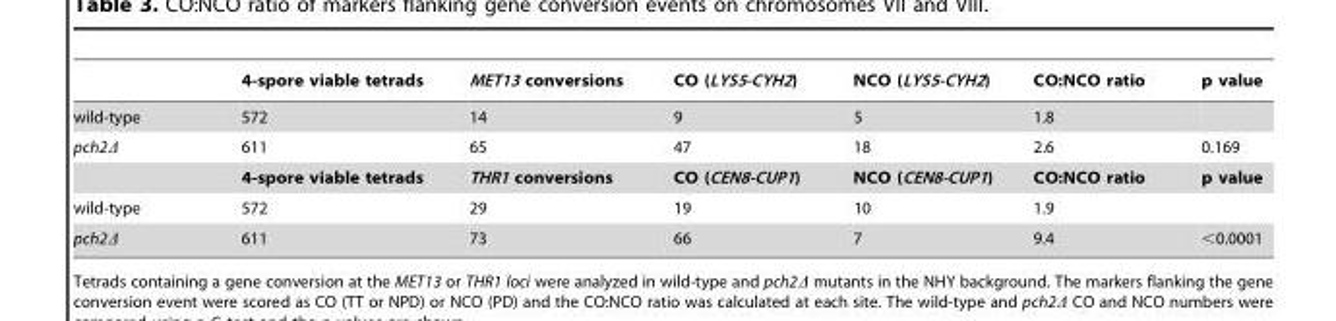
<table><thead><tr><td></td><td>4-spore viable tetrads</td><td>MET13 conversions</td><td>CO (LYS5-CYH2)</td><td>NCO (LYS5-CYH2)</td><td>CO:NCO ratio</td><td>p value</td></tr></thead><tbody><tr><td>wild-type</td><td>572</td><td>14</td><td>9</td><td>5</td><td>1.8</td><td></td></tr><tr><td rowspan="2">pch2Δ</td><td>611</td><td>65</td><td>47</td><td>18</td><td>2.6</td><td>0.169</td></tr><tr><td>4-spore viable tetrads</td><td>THR1 conversions</td><td>CO (CEN8-CUP1)</td><td>NCO (CEN8-CUP1)</td><td>CO:NCO ratio</td><td>p value</td></tr><tr><td>wild-type</td><td>572</td><td>29</td><td>19</td><td>10</td><td>1.9</td><td></td></tr><tr><td>pch2Δ</td><td>611</td><td>73</td><td>66</td><td>7</td><td>9.4</td><td>&lt;0.0001</td></tr></tbody></table>